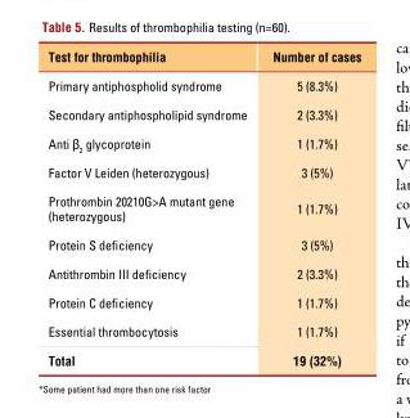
<table><thead><tr><td>Test for thrombophilia</td><td>Number of cases</td></tr></thead><tbody><tr><td>Primary antiphospholid syndrome</td><td>5 (8.3%)</td></tr><tr><td>Secondary antiphospholipid syndrome</td><td>2 (3.3%)</td></tr><tr><td>Anti β<sub>2</sub> glycoprotein</td><td>1 (1.7%)</td></tr><tr><td>Factor V Leiden (heterozygous)</td><td>3 (5%)</td></tr><tr><td>Prothrombin 20210G&gt;A mutant gene (heterozygous)</td><td>1 (1.7%)</td></tr><tr><td>Protein S deficiency</td><td>3 (5%)</td></tr><tr><td>Antithrombin III deficiency</td><td>2 (3.3%)</td></tr><tr><td>Protein C deficiency</td><td>1 (1.7%)</td></tr><tr><td>Essential thrombocytosis</td><td>1 (1.7%)</td></tr><tr><td>Total</td><td>19 (32%)</td></tr></tbody></table>